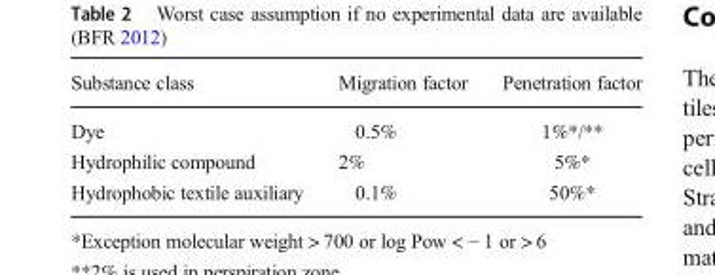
<table><thead><tr><td>Substance class</td><td>Migration factor</td><td>Penetration factor</td></tr></thead><tbody><tr><td>Dye</td><td>0.5%</td><td>1%*/**</td></tr><tr><td>Hydrophilic compound</td><td>2%</td><td>5%*</td></tr><tr><td>Hydrophobic textile auxiliary</td><td>0.1%</td><td>50%*</td></tr></tbody></table>